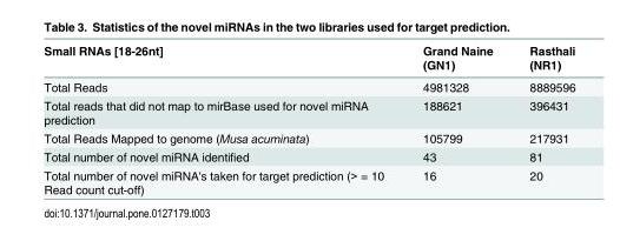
<table><thead><tr><td>Small RNAs [18-26nt]</td><td>Grand Naine (GN1)</td><td>Rasthali (NR1)</td></tr></thead><tbody><tr><td>Total Reads</td><td>4981328</td><td>8889596</td></tr><tr><td>Total reads that did not map to mirBase used for novel miRNA prediction</td><td>188621</td><td>396431</td></tr><tr><td>Total Reads Mapped to genome (Musa acuminata)</td><td>105799</td><td>217931</td></tr><tr><td>Total number of novel miRNA identified</td><td>43</td><td>81</td></tr><tr><td>Total number of novel miRNA&#x27;s taken for target prediction (&gt; = 10 Read count cut-off)</td><td>16</td><td>20</td></tr></tbody></table>